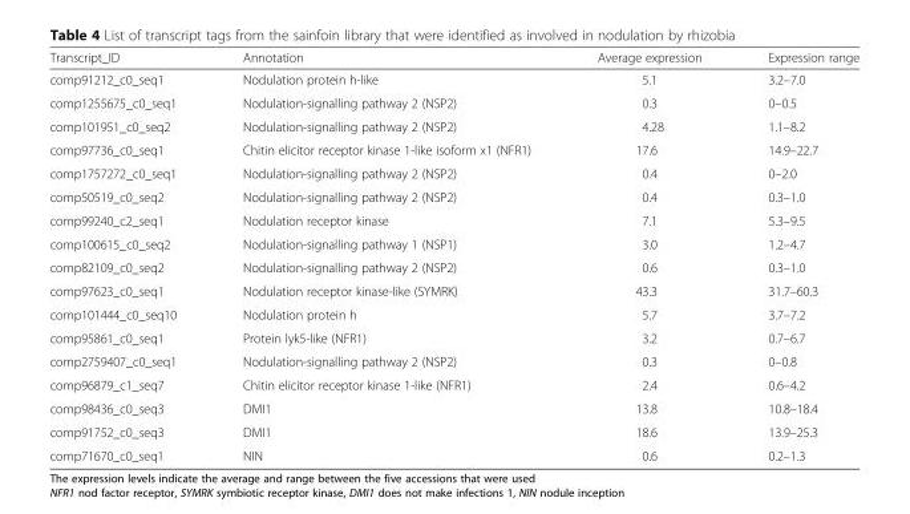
<table><thead><tr><td>Transcript_ID</td><td>Annotation</td><td>Average expression</td><td>Expression range</td></tr></thead><tbody><tr><td>comp91212_c0_seq1</td><td>Nodulation protein h-like</td><td>5.1</td><td>3.2–7.0</td></tr><tr><td>comp1255675_c0_seq1</td><td>Nodulation-signalling pathway 2 (NSP2)</td><td>0.3</td><td>0–0.5</td></tr><tr><td>comp101951_c0_seq2</td><td>Nodulation-signalling pathway 2 (NSP2)</td><td>4.28</td><td>1.1–8.2</td></tr><tr><td>comp97736_c0_seq1</td><td>Chitin elicitor receptor kinase 1-like isoform x1 (NFR1)</td><td>17.6</td><td>14.9–22.7</td></tr><tr><td>comp1757272_c0_seq1</td><td>Nodulation-signalling pathway 2 (NSP2)</td><td>0.4</td><td>0–2.0</td></tr><tr><td>comp50519_c0_seq2</td><td>Nodulation-signalling pathway 2 (NSP2)</td><td>0.4</td><td>0.3–1.0</td></tr><tr><td>comp99240_c2_seq1</td><td>Nodulation receptor kinase</td><td>7.1</td><td>5.3–9.5</td></tr><tr><td>comp100615_c0_seq2</td><td>Nodulation-signalling pathway 1 (NSP1)</td><td>3.0</td><td>1.2–4.7</td></tr><tr><td>comp82109_c0_seq2</td><td>Nodulation-signalling pathway 2 (NSP2)</td><td>0.6</td><td>0.3–1.0</td></tr><tr><td>comp97623_c0_seq1</td><td>Nodulation receptor kinase-like (SYMRK)</td><td>43.3</td><td>31.7–60.3</td></tr><tr><td>comp101444_c0_seq10</td><td>Nodulation protein h</td><td>5.7</td><td>3.7–7.2</td></tr><tr><td>comp95861_c0_seq1</td><td>Protein lyk5-like (NFR1)</td><td>3.2</td><td>0.7–6.7</td></tr><tr><td>comp2759407_c0_seq1</td><td>Nodulation-signalling pathway 2 (NSP2)</td><td>0.3</td><td>0–0.8</td></tr><tr><td>comp96879_c1_seq7</td><td>Chitin elicitor receptor kinase 1-like (NFR1)</td><td>2.4</td><td>0.6–4.2</td></tr><tr><td>comp98436_c0_seq3</td><td>DMI1</td><td>13.8</td><td>10.8–18.4</td></tr><tr><td>comp91752_c0_seq3</td><td>DMI1</td><td>18.6</td><td>13.9–25.3</td></tr><tr><td>comp71670_c0_seq1</td><td>NIN</td><td>0.6</td><td>0.2–1.3</td></tr></tbody></table>